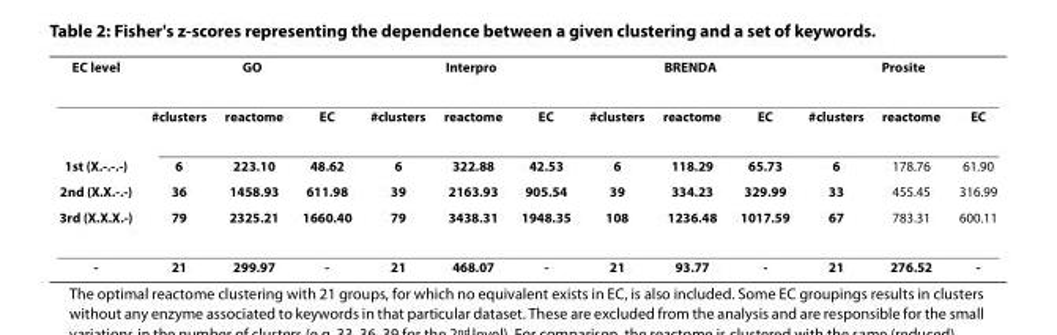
<table><thead><tr><td rowspan="2">EC level</td><td colspan="3">GO</td><td colspan="3">Interpro</td><td colspan="3">BRENDA</td><td colspan="3">Prosite</td></tr><tr><td>#clusters</td><td>reactome</td><td>EC</td><td>#clusters</td><td>reactome</td><td>EC</td><td>#clusters</td><td>reactome</td><td>EC</td><td>#clusters</td><td>reactome</td><td>EC</td></tr></thead><tbody><tr><td>1st (X.-.-.-)</td><td>6</td><td>223.10</td><td>48.62</td><td>6</td><td>322.88</td><td>42.53</td><td>6</td><td>118.29</td><td>65.73</td><td>6</td><td>178.76</td><td>61.90</td></tr><tr><td>2nd (X.X.-.-)</td><td>36</td><td>1458.93</td><td>611.98</td><td>39</td><td>2163.93</td><td>905.54</td><td>39</td><td>334.23</td><td>329.99</td><td>33</td><td>455.45</td><td>316.99</td></tr><tr><td>3rd (X.X.X.-)</td><td>79</td><td>2325.21</td><td>1660.40</td><td>79</td><td>3438.31</td><td>1948.35</td><td>108</td><td>1236.48</td><td>1017.59</td><td>67</td><td>783.31</td><td>600.11</td></tr><tr><td>-</td><td>21</td><td>299.97</td><td>-</td><td>21</td><td>468.07</td><td>-</td><td>21</td><td>93.77</td><td>-</td><td>21</td><td>276.52</td><td>-</td></tr></tbody></table>